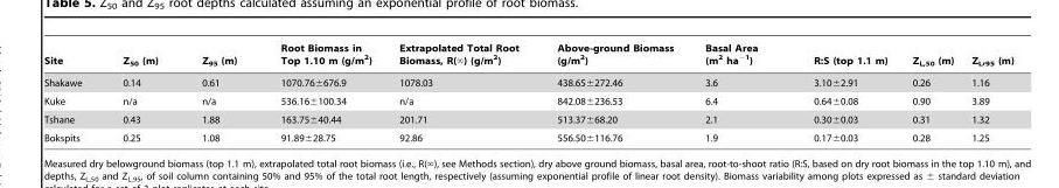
<table><thead><tr><td>Site</td><td>Z<sub>50</sub> (m)</td><td>Z<sub>95</sub> (m)</td><td>Root Biomass in Top 1.10 m (g/m<sup>2</sup>)</td><td>Extrapolated Total Root Biomass, R(‘) (g/m2)</td><td>Above-ground Biomass (g/m<sup>2</sup>)</td><td>Basal Area (m<sup>2</sup> ha<sup>−1</sup>)</td><td>R:S (top 1.1 m)</td><td>Z<sub>L,50</sub> (m)</td><td>Z<sub>L</sub>,<sub>95</sub> (m)</td></tr></thead><tbody><tr><td>Shakawe</td><td>0.14</td><td>0.61</td><td>1070.76±676.9</td><td>1078.03</td><td>438.65±272.46</td><td>3.6</td><td>3.10±2.91</td><td>0.26</td><td>1.16</td></tr><tr><td>Kuke</td><td>n/a</td><td>n/a</td><td>536.16±100.34</td><td>n/a</td><td>842.08±236.53</td><td>6.4</td><td>0.64±0.08</td><td>0.90</td><td>3.89</td></tr><tr><td>Tshane</td><td>0.43</td><td>1.88</td><td>163.75±40.44</td><td>201.71</td><td>513.37±68.20</td><td>2.1</td><td>0.30±0.03</td><td>0.31</td><td>1.32</td></tr><tr><td>Bokspits</td><td>0.25</td><td>1.08</td><td>91.89±28.75</td><td>92.86</td><td>556.50±116.76</td><td>1.9</td><td>0.17±0.03</td><td>0.28</td><td>1.25</td></tr></tbody></table>